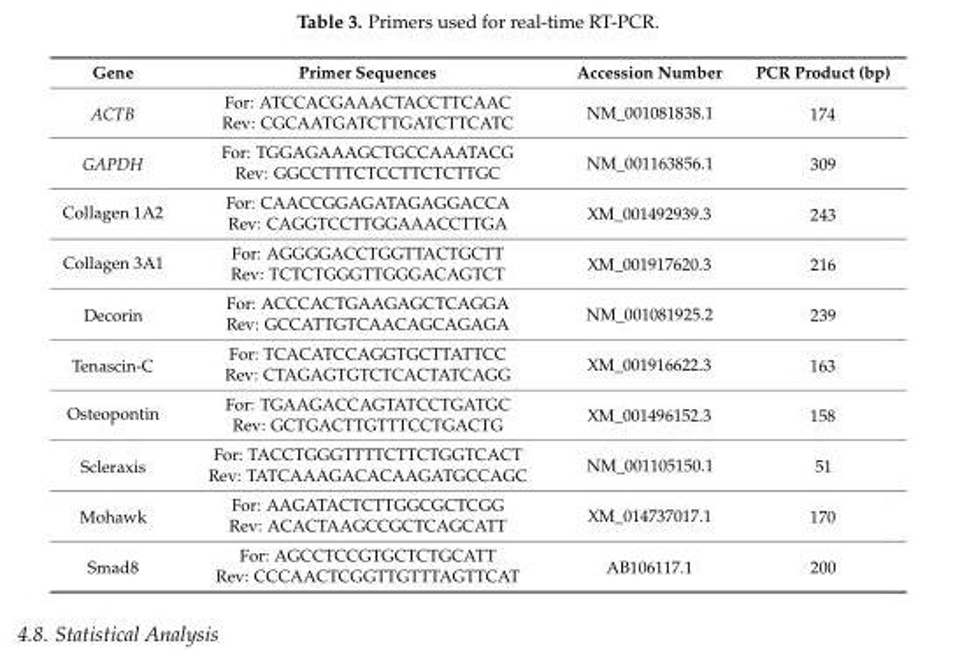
<table><thead><tr><td>Gene</td><td>Primer Sequences</td><td>Accession Number</td><td>PCR Product (bp)</td></tr></thead><tbody><tr><td rowspan="2">ACTB</td><td>For: ATCCACGAAACTACCTTCAAC</td><td rowspan="2">NM_001081838.1</td><td rowspan="2">174</td></tr><tr><td>Rev: CGCAATGATCTTGATCTTCATC</td></tr><tr><td rowspan="2">GAPDH</td><td>For: TGGAGAAAGCTGCCAAATACG</td><td rowspan="2">NM_001163856.1</td><td rowspan="2">309</td></tr><tr><td>Rev: GGCCTTTCTCCTTCTCTTGC</td></tr><tr><td rowspan="2">Collagen 1A2</td><td>For: CAACCGGAGATAGAGGACCA</td><td rowspan="2">XM_001492939.3</td><td rowspan="2">243</td></tr><tr><td>Rev: CAGGTCCTTGGAAACCTTGA</td></tr><tr><td rowspan="2">Collagen 3A1</td><td>For: AGGGGACCTGGTTACTGCTT</td><td rowspan="2">XM_001917620.3</td><td rowspan="2">216</td></tr><tr><td>Rev: TCTCTGGGTTGGGACAGTCT</td></tr><tr><td rowspan="2">Decorin</td><td>For: ACCCACTGAAGAGCTCAGGA</td><td rowspan="2">NM_001081925.2</td><td rowspan="2">239</td></tr><tr><td>Rev: GCCATTGTCAACAGCAGAGA</td></tr><tr><td rowspan="2">Tenascin-C</td><td>For: TCACATCCAGGTGCTTATTCC</td><td rowspan="2">XM_001916622.3</td><td rowspan="2">163</td></tr><tr><td>Rev: CTAGAGTGTCTCACTATCAGG</td></tr><tr><td rowspan="2">Osteopontin</td><td>For: TGAAGACCAGTATCCTGATGC</td><td rowspan="2">XM_001496152.3</td><td rowspan="2">158</td></tr><tr><td>Rev: GCTGACTTGTTTCCTGACTG</td></tr><tr><td rowspan="2">Scleraxis</td><td>For: TACCTGGGTTTTCTTCTGGTCACT</td><td rowspan="2">NM_001105150.1</td><td rowspan="2">51</td></tr><tr><td>Rev: TATCAAAGACACAAGATGCCAGC</td></tr><tr><td rowspan="2">Mohawk</td><td>For: AAGATACTCTTGGCGCTCGG</td><td rowspan="2">XM_014737017.1</td><td rowspan="2">170</td></tr><tr><td>Rev: ACACTAAGCCGCTCAGCATT</td></tr><tr><td rowspan="2">Smad8</td><td>For: AGCCTCCGTGCTCTGCATT</td><td rowspan="2">AB106117.1</td><td rowspan="2">200</td></tr><tr><td>Rev: CCCAACTCGGTTGTTTAGTTCAT</td></tr></tbody></table>